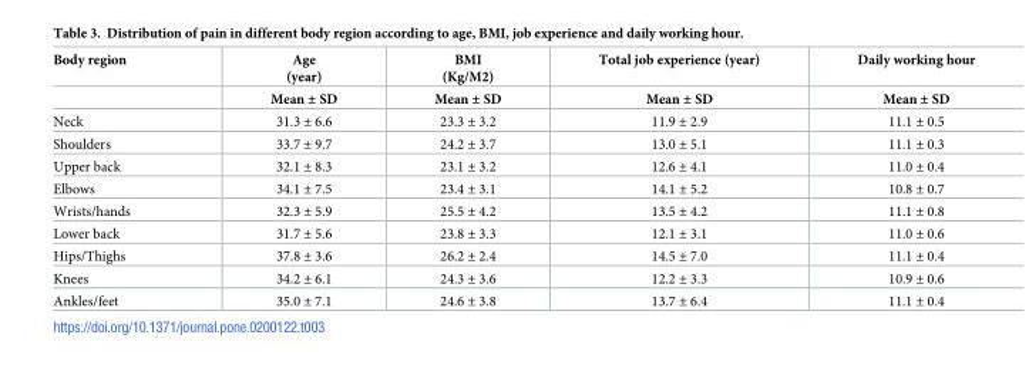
<table><thead><tr><td rowspan="2">Body region</td><td rowspan="2">Age (year) Mean ± SD</td><td rowspan="2">BMI (Kg/M2) Mean ± SD</td><td rowspan="2">Total job experience (year) Mean ± SD</td><td rowspan="2">Daily working hour Mean ± SD</td></tr><tr></tr></thead><tbody><tr><td>Neck</td><td>31.3 ± 6.6</td><td>23.3 ± 3.2</td><td>11.9 ± 2.9</td><td>11.1 ± 0.5</td></tr><tr><td>Shoulders</td><td>33.7 ± 9.7</td><td>24.2 ± 3.7</td><td>13.0 ± 5.1</td><td>11.1 ± 0.3</td></tr><tr><td>Upper back</td><td>32.1 ± 8.3</td><td>23.1 ± 3.2</td><td>12.6 ± 4.1</td><td>11.0 ± 0.4</td></tr><tr><td>Elbows</td><td>34.1 ± 7.5</td><td>23.4 ± 3.1</td><td>14.1 ± 5.2</td><td>10.8 ± 0.7</td></tr><tr><td>Wrists/hands</td><td>32.3 ± 5.9</td><td>25.5 ± 4.2</td><td>13.5 ± 4.2</td><td>11.1 ± 0.8</td></tr><tr><td>Lower back</td><td>31.7 ± 5.6</td><td>23.8 ± 3.3</td><td>12.1 ± 3.1</td><td>11.0 ± 0.6</td></tr><tr><td>Hips/Thighs</td><td>37.8 ± 3.6</td><td>26.2 ± 2.4</td><td>14.5 ± 7.0</td><td>11.1 ± 0.4</td></tr><tr><td>Knees</td><td>34.2 ± 6.1</td><td>24.3 ± 3.6</td><td>12.2 ± 3.3</td><td>10.9 ± 0.6</td></tr><tr><td>Ankles/feet</td><td>35.0 ± 7.1</td><td>24.6 ± 3.8</td><td>13.7 ± 6.4</td><td>11.1 ± 0.4</td></tr></tbody></table>